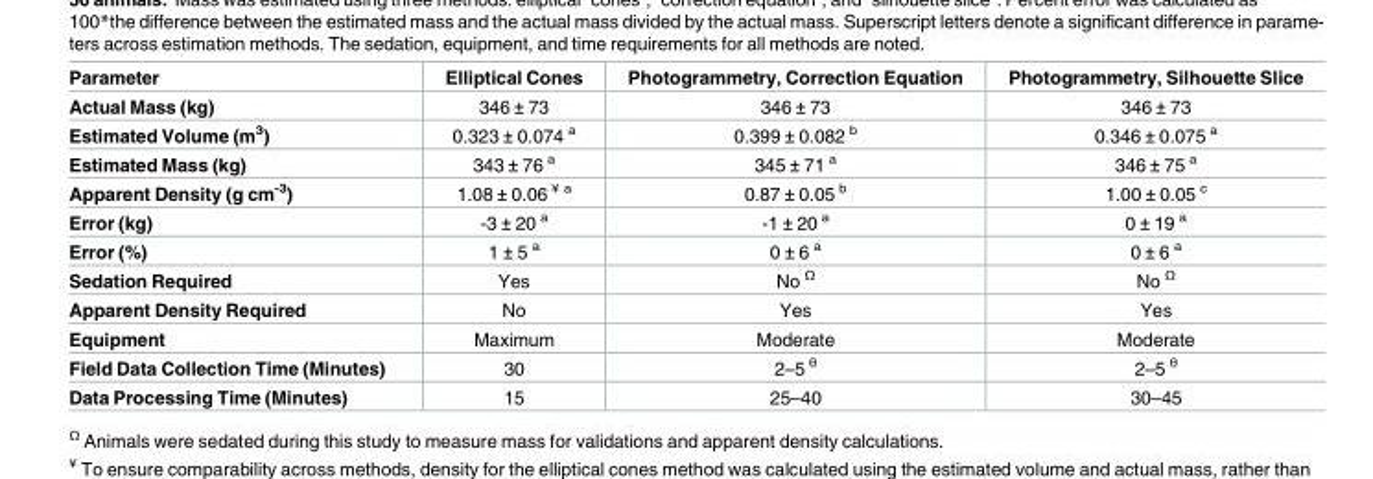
<table><thead><tr><td>Parameter</td><td>Elliptical Cones</td><td>Photogrammetry, Correction Equation</td><td>Photogrammetry, Silhouette Slice</td></tr></thead><tbody><tr><td>Actual Mass (kg)</td><td>346 ± 73</td><td>346 ± 73</td><td>346 ± 73</td></tr><tr><td>Estimated Volume (m<sup>3</sup>)</td><td>0.323 ± 0.074 <sup>a</sup></td><td>0.399 ± 0.082 <sup>b</sup></td><td>0.346 ± 0.075 <sup>a</sup></td></tr><tr><td>Estimated Mass (kg)</td><td>343 ± 76 <sup>a</sup></td><td>345 ± 71 <sup>a</sup></td><td>346 ± 75 <sup>a</sup></td></tr><tr><td>Apparent Density (g cm<sup>-3</sup>)</td><td>1.08 ± 0.06 <sup>¥ a</sup></td><td>0.87 ± 0.05 <sup>b</sup></td><td>1.00 ± 0.05 <sup>c</sup></td></tr><tr><td>Error (kg)</td><td>-3 ± 20 <sup>a</sup></td><td>-1 ± 20 <sup>a</sup></td><td>0 ± 19 <sup>a</sup></td></tr><tr><td>Error (%)</td><td>1 ± 5 <sup>a</sup></td><td>0 ± 6 <sup>a</sup></td><td>0 ± 6 <sup>a</sup></td></tr><tr><td>Sedation Required</td><td>Yes</td><td>No <sup>Ω</sup></td><td>No <sup>Ω</sup></td></tr><tr><td>Apparent Density Required</td><td>No</td><td>Yes</td><td>Yes</td></tr><tr><td>Equipment</td><td>Maximum</td><td>Moderate</td><td>Moderate</td></tr><tr><td>Field Data Collection Time (Minutes)</td><td>30</td><td>2–5 <sup>θ</sup></td><td>2–5 <sup>θ</sup></td></tr><tr><td>Data Processing Time (Minutes)</td><td>15</td><td>25–40</td><td>30–45</td></tr></tbody></table>